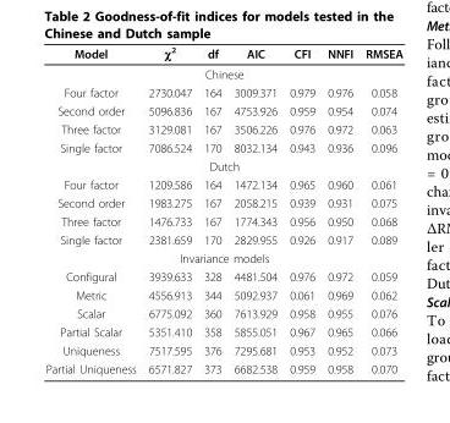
<table><thead><tr><td>Model</td><td>χ<sup>2</sup></td><td>df</td><td>AIC</td><td>CFI</td><td>NNFI</td><td>RMSEA</td></tr></thead><tbody><tr><td colspan="7">Chinese</td></tr><tr><td>Four factor</td><td>2730.047</td><td>164</td><td>3009.371</td><td>0.979</td><td>0.976</td><td>0.058</td></tr><tr><td>Second order</td><td>5096.836</td><td>167</td><td>4753.926</td><td>0.959</td><td>0.954</td><td>0.074</td></tr><tr><td>Three factor</td><td>3129.081</td><td>167</td><td>3506.226</td><td>0.976</td><td>0.972</td><td>0.063</td></tr><tr><td>Single factor</td><td>7086.524</td><td>170</td><td>8032.134</td><td>0.943</td><td>0.936</td><td>0.096</td></tr><tr><td colspan="7">Dutch</td></tr><tr><td>Four factor</td><td>1209.586</td><td>164</td><td>1472.134</td><td>0.965</td><td>0.960</td><td>0.061</td></tr><tr><td>Second order</td><td>1983.275</td><td>167</td><td>2058.215</td><td>0.939</td><td>0.931</td><td>0.075</td></tr><tr><td>Three factor</td><td>1476.733</td><td>167</td><td>1774.343</td><td>0.956</td><td>0.950</td><td>0.068</td></tr><tr><td>Single factor</td><td>2381.659</td><td>170</td><td>2829.955</td><td>0.926</td><td>0.917</td><td>0.089</td></tr><tr><td colspan="7">Invariance models</td></tr><tr><td>Configural</td><td>3939.633</td><td>328</td><td>4481.504</td><td>0.976</td><td>0.972</td><td>0.059</td></tr><tr><td>Metric</td><td>4556.913</td><td>344</td><td>5092.937</td><td>0.061</td><td>0.969</td><td>0.062</td></tr><tr><td>Scalar</td><td>6775.092</td><td>360</td><td>7613.929</td><td>0.958</td><td>0.955</td><td>0.076</td></tr><tr><td>Partial Scalar</td><td>5351.410</td><td>358</td><td>5855.051</td><td>0.967</td><td>0.965</td><td>0.066</td></tr><tr><td>Uniqueness</td><td>7517.595</td><td>376</td><td>7295.681</td><td>0.953</td><td>0.952</td><td>0.073</td></tr><tr><td>Partial Uniqueness</td><td>6571.827</td><td>373</td><td>6682.538</td><td>0.959</td><td>0.958</td><td>0.070</td></tr></tbody></table>